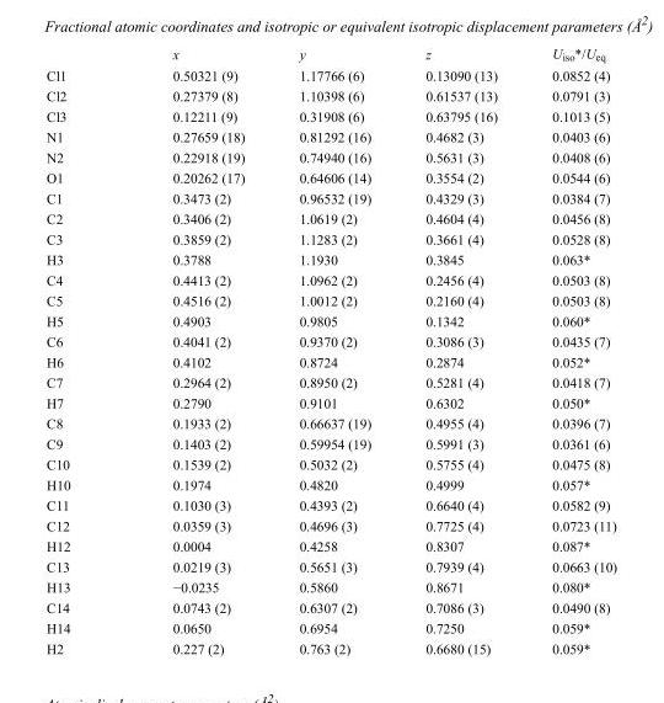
<table><thead><tr><td></td><td>x</td><td>y</td><td>z</td><td>U<sub>iso</sub>*/U<sub>eq</sub></td></tr></thead><tbody><tr><td>Cl1</td><td>0.50321 (9)</td><td>1.17766 (6)</td><td>0.13090 (13)</td><td>0.0852 (4)</td></tr><tr><td>Cl2</td><td>0.27379 (8)</td><td>1.10398 (6)</td><td>0.61537 (13)</td><td>0.0791 (3)</td></tr><tr><td>Cl3</td><td>0.12211 (9)</td><td>0.31908 (6)</td><td>0.63795 (16)</td><td>0.1013 (5)</td></tr><tr><td>N1</td><td>0.27659 (18)</td><td>0.81292 (16)</td><td>0.4682 (3)</td><td>0.0403 (6)</td></tr><tr><td>N2</td><td>0.22918 (19)</td><td>0.74940 (16)</td><td>0.5631 (3)</td><td>0.0408 (6)</td></tr><tr><td>O1</td><td>0.20262 (17)</td><td>0.64606 (14)</td><td>0.3554 (2)</td><td>0.0544 (6)</td></tr><tr><td>C1</td><td>0.3473 (2)</td><td>0.96532 (19)</td><td>0.4329 (3)</td><td>0.0384 (7)</td></tr><tr><td>C2</td><td>0.3406 (2)</td><td>1.0619 (2)</td><td>0.4604 (4)</td><td>0.0456 (8)</td></tr><tr><td>C3</td><td>0.3859 (2)</td><td>1.1283 (2)</td><td>0.3661 (4)</td><td>0.0528 (8)</td></tr><tr><td>H3</td><td>0.3788</td><td>1.1930</td><td>0.3845</td><td>0.063*</td></tr><tr><td>C4</td><td>0.4413 (2)</td><td>1.0962 (2)</td><td>0.2456 (4)</td><td>0.0503 (8)</td></tr><tr><td>C5</td><td>0.4516 (2)</td><td>1.0012 (2)</td><td>0.2160 (4)</td><td>0.0503 (8)</td></tr><tr><td>H5</td><td>0.4903</td><td>0.9805</td><td>0.1342</td><td>0.060*</td></tr><tr><td>C6</td><td>0.4041 (2)</td><td>0.9370 (2)</td><td>0.3086 (3)</td><td>0.0435 (7)</td></tr><tr><td>H6</td><td>0.4102</td><td>0.8724</td><td>0.2874</td><td>0.052*</td></tr><tr><td>C7</td><td>0.2964 (2)</td><td>0.8950 (2)</td><td>0.5281 (4)</td><td>0.0418 (7)</td></tr><tr><td>H7</td><td>0.2790</td><td>0.9101</td><td>0.6302</td><td>0.050*</td></tr><tr><td>C8</td><td>0.1933 (2)</td><td>0.66637 (19)</td><td>0.4955 (4)</td><td>0.0396 (7)</td></tr><tr><td>C9</td><td>0.1403 (2)</td><td>0.59954 (19)</td><td>0.5991 (3)</td><td>0.0361 (6)</td></tr><tr><td>C10</td><td>0.1539 (2)</td><td>0.5032 (2)</td><td>0.5755 (4)</td><td>0.0475 (8)</td></tr><tr><td>H10</td><td>0.1974</td><td>0.4820</td><td>0.4999</td><td>0.057*</td></tr><tr><td>C11</td><td>0.1030 (3)</td><td>0.4393 (2)</td><td>0.6640 (4)</td><td>0.0582 (9)</td></tr><tr><td>C12</td><td>0.0359 (3)</td><td>0.4696 (3)</td><td>0.7725 (4)</td><td>0.0723 (11)</td></tr><tr><td>H12</td><td>0.0004</td><td>0.4258</td><td>0.8307</td><td>0.087*</td></tr><tr><td>C13</td><td>0.0219 (3)</td><td>0.5651 (3)</td><td>0.7939 (4)</td><td>0.0663 (10)</td></tr><tr><td>H13</td><td>−0.0235</td><td>0.5860</td><td>0.8671</td><td>0.080*</td></tr><tr><td>C14</td><td>0.0743 (2)</td><td>0.6307 (2)</td><td>0.7086 (3)</td><td>0.0490 (8)</td></tr><tr><td>H14</td><td>0.0650</td><td>0.6954</td><td>0.7250</td><td>0.059*</td></tr><tr><td>H2</td><td>0.227 (2)</td><td>0.763 (2)</td><td>0.6680 (15)</td><td>0.059*</td></tr></tbody></table>